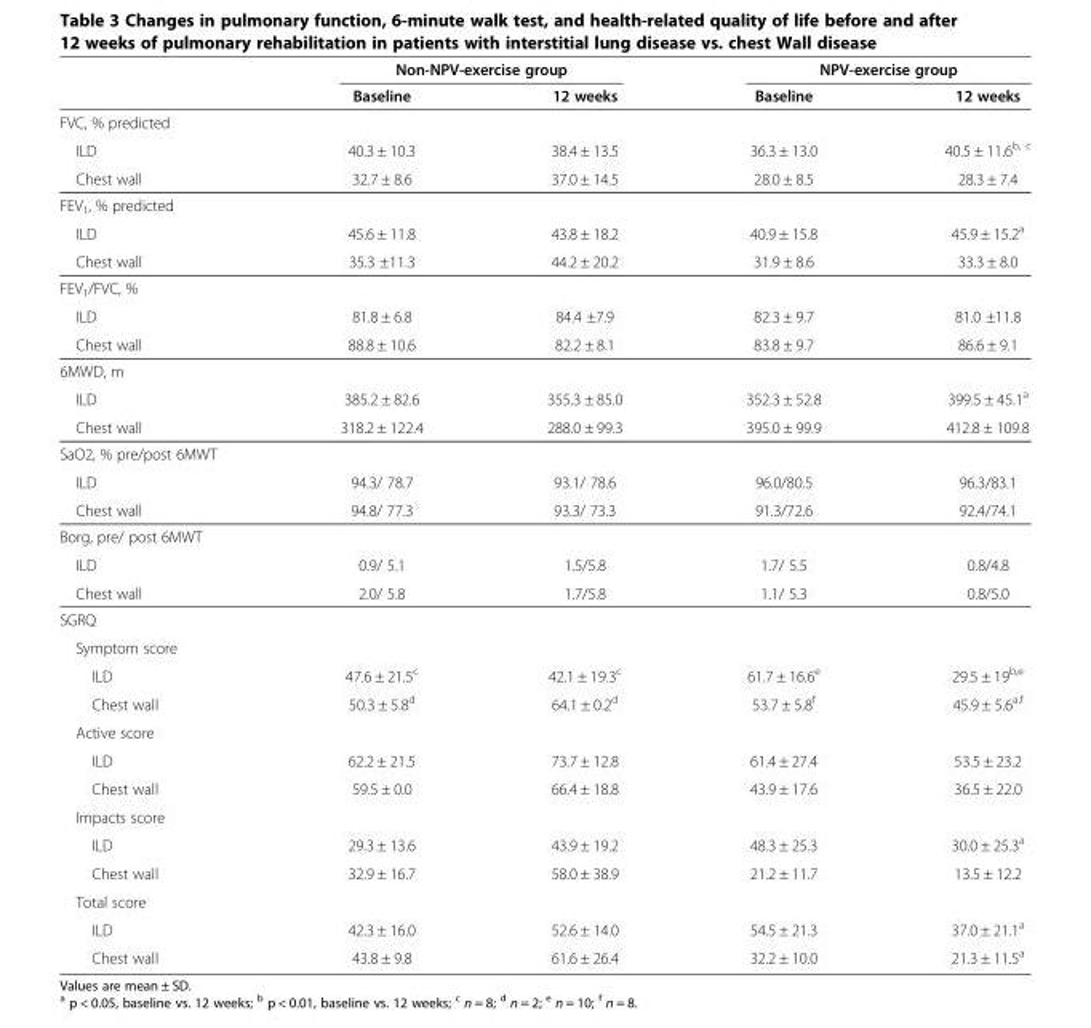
<table><thead><tr><td rowspan="2"></td><td colspan="2">Non-NPV-exercise group</td><td colspan="2">NPV-exercise group</td></tr><tr><td>Baseline</td><td>12 weeks</td><td>Baseline</td><td>12 weeks</td></tr></thead><tbody><tr><td colspan="5">FVC, % predicted</td></tr><tr><td>ILD</td><td>40.3 ± 10.3</td><td>38.4 ± 13.5</td><td>36.3 ± 13.0</td><td>40.5 ± 11.6<sup>b, c</sup></td></tr><tr><td>Chest wall</td><td>32.7 ± 8.6</td><td>37.0 ± 14.5</td><td>28.0 ± 8.5</td><td>28.3 ± 7.4</td></tr><tr><td colspan="5">FEV<sub>1</sub>, % predicted</td></tr><tr><td>ILD</td><td>45.6 ± 11.8</td><td>43.8 ± 18.2</td><td>40.9 ± 15.8</td><td>45.9 ± 15.2<sup>a</sup></td></tr><tr><td>Chest wall</td><td>35.3 ±11.3</td><td>44.2 ± 20.2</td><td>31.9 ± 8.6</td><td>33.3 ± 8.0</td></tr><tr><td colspan="5">FEV<sub>1</sub>/FVC, %</td></tr><tr><td>ILD</td><td>81.8 ± 6.8</td><td>84.4 ±7.9</td><td>82.3 ± 9.7</td><td>81.0 ±11.8</td></tr><tr><td>Chest wall</td><td>88.8 ± 10.6</td><td>82.2 ± 8.1</td><td>83.8 ± 9.7</td><td>86.6 ± 9.1</td></tr><tr><td colspan="5">6MWD, m</td></tr><tr><td>ILD</td><td>385.2 ± 82.6</td><td>355.3 ± 85.0</td><td>352.3 ± 52.8</td><td>399.5 ± 45.1<sup>a</sup></td></tr><tr><td>Chest wall</td><td>318.2 ± 122.4</td><td>288.0 ± 99.3</td><td>395.0 ± 99.9</td><td>412.8 ± 109.8</td></tr><tr><td colspan="5">SaO2, % pre/post 6MWT</td></tr><tr><td>ILD</td><td>94.3/ 78.7</td><td>93.1/ 78.6</td><td>96.0/80.5</td><td>96.3/83.1</td></tr><tr><td>Chest wall</td><td>94.8/ 77.3</td><td>93.3/ 73.3</td><td>91.3/72.6</td><td>92.4/74.1</td></tr><tr><td colspan="5">Borg, pre/ post 6MWT</td></tr><tr><td>ILD</td><td>0.9/ 5.1</td><td>1.5/5.8</td><td>1.7/ 5.5</td><td>0.8/4.8</td></tr><tr><td>Chest wall</td><td>2.0/ 5.8</td><td>1.7/5.8</td><td>1.1/ 5.3</td><td>0.8/5.0</td></tr><tr><td colspan="5">SGRQ</td></tr><tr><td colspan="5">Symptom score</td></tr><tr><td>ILD</td><td>47.6 ± 21.5<sup>c</sup></td><td>42.1 ± 19.3<sup>c</sup></td><td>61.7 ± 16.6<sup>e</sup></td><td>29.5 ± 19<sup>b,e</sup></td></tr><tr><td>Chest wall</td><td>50.3 ± 5.8<sup>d</sup></td><td>64.1 ± 0.2<sup>d</sup></td><td>53.7 ± 5.8<sup>f</sup></td><td>45.9 ± 5.6<sup>a,f</sup></td></tr><tr><td colspan="5">Active score</td></tr><tr><td>ILD</td><td>62.2 ± 21.5</td><td>73.7 ± 12.8</td><td>61.4 ± 27.4</td><td>53.5 ± 23.2</td></tr><tr><td>Chest wall</td><td>59.5 ± 0.0</td><td>66.4 ± 18.8</td><td>43.9 ± 17.6</td><td>36.5 ± 22.0</td></tr><tr><td colspan="5">Impacts score</td></tr><tr><td>ILD</td><td>29.3 ± 13.6</td><td>43.9 ± 19.2</td><td>48.3 ± 25.3</td><td>30.0 ± 25.3<sup>a</sup></td></tr><tr><td>Chest wall</td><td>32.9 ± 16.7</td><td>58.0 ± 38.9</td><td>21.2 ± 11.7</td><td>13.5 ± 12.2</td></tr><tr><td colspan="5">Total score</td></tr><tr><td>ILD</td><td>42.3 ± 16.0</td><td>52.6 ± 14.0</td><td>54.5 ± 21.3</td><td>37.0 ± 21.1<sup>a</sup></td></tr><tr><td>Chest wall</td><td>43.8 ± 9.8</td><td>61.6 ± 26.4</td><td>32.2 ± 10.0</td><td>21.3 ± 11.5<sup>a</sup></td></tr></tbody></table>